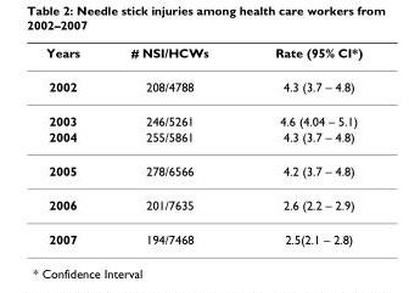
<table><thead><tr><td>Years</td><td># NSI/HCWs</td><td>Rate (95% CI*)</td></tr></thead><tbody><tr><td>2002</td><td>208/4788</td><td>4.3 (3.7 – 4.8)</td></tr><tr><td>2003</td><td>246/5261</td><td>4.6 (4.04 – 5.1)</td></tr><tr><td>2004</td><td>255/5861</td><td>4.3 (3.7 – 4.8)</td></tr><tr><td>2005</td><td>278/6566</td><td>4.2 (3.7 – 4.8)</td></tr><tr><td>2006</td><td>201/7635</td><td>2.6 (2.2 – 2.9)</td></tr><tr><td>2007</td><td>194/7468</td><td>2.5(2.1 – 2.8)</td></tr></tbody></table>